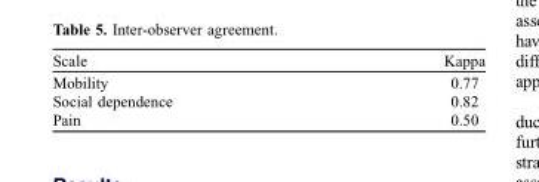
<table><thead><tr><td>Scale</td><td>Kappa</td></tr></thead><tbody><tr><td>Mobility</td><td>0.77</td></tr><tr><td>Social dependence</td><td>0.82</td></tr><tr><td>Pain</td><td>0.50</td></tr></tbody></table>